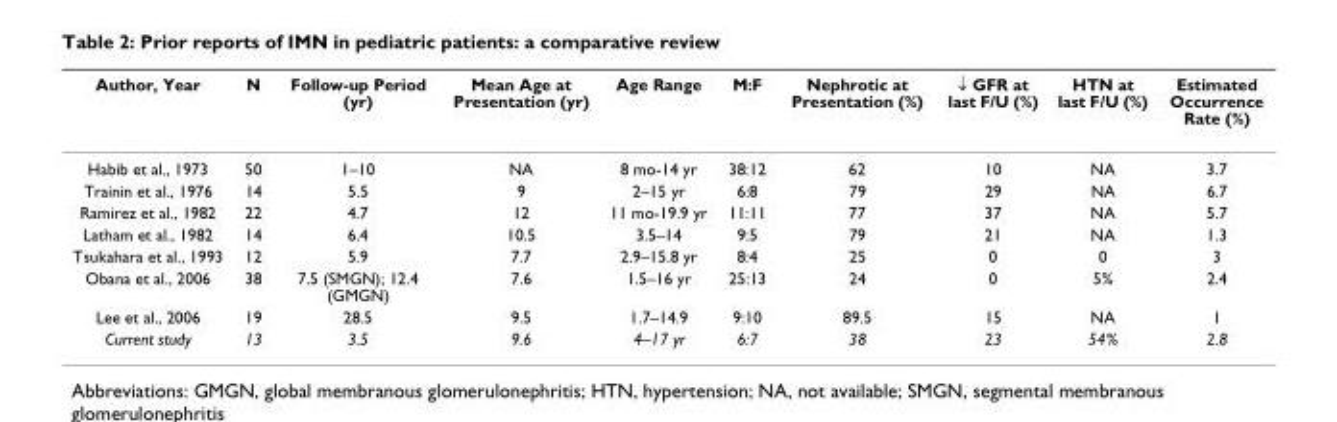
<table><thead><tr><td>Author, Year</td><td>N</td><td>Follow-up Period (yr)</td><td>Mean Age at Presentation (yr)</td><td>Age Range</td><td>M:F</td><td>Nephrotic at Presentation (%)</td><td>↓ GFR at last F/U (%)</td><td>HTN at last F/U (%)</td><td>Estimated Occurrence Rate (%)</td></tr></thead><tbody><tr><td>Habib et al., 1973</td><td>50</td><td>1–10</td><td>NA</td><td>8 mo-14 yr</td><td>38:12</td><td>62</td><td>10</td><td>NA</td><td>3.7</td></tr><tr><td>Trainin et al., 1976</td><td>14</td><td>5.5</td><td>9</td><td>2–15 yr</td><td>6:8</td><td>79</td><td>29</td><td>NA</td><td>6.7</td></tr><tr><td>Ramirez et al., 1982</td><td>22</td><td>4.7</td><td>12</td><td>11 mo-19.9 yr</td><td>11:11</td><td>77</td><td>37</td><td>NA</td><td>5.7</td></tr><tr><td>Latham et al., 1982</td><td>14</td><td>6.4</td><td>10.5</td><td>3.5–14</td><td>9:5</td><td>79</td><td>21</td><td>NA</td><td>1.3</td></tr><tr><td>Tsukahara et al., 1993</td><td>12</td><td>5.9</td><td>7.7</td><td>2.9–15.8 yr</td><td>8:4</td><td>25</td><td>0</td><td>0</td><td>3</td></tr><tr><td>Obana et al., 2006</td><td>38</td><td>7.5 (SMGN); 12.4 (GMGN)</td><td>7.6</td><td>1.5–16 yr</td><td>25:13</td><td>24</td><td>0</td><td>5%</td><td>2.4</td></tr><tr><td>Lee et al., 2006</td><td>19</td><td>28.5</td><td>9.5</td><td>1.7–14.9</td><td>9:10</td><td>89.5</td><td>15</td><td>NA</td><td>1</td></tr><tr><td>Current study</td><td>13</td><td>3.5</td><td>9.6</td><td>4–17 yr</td><td>6:7</td><td>38</td><td>23</td><td>54%</td><td>2.8</td></tr></tbody></table>